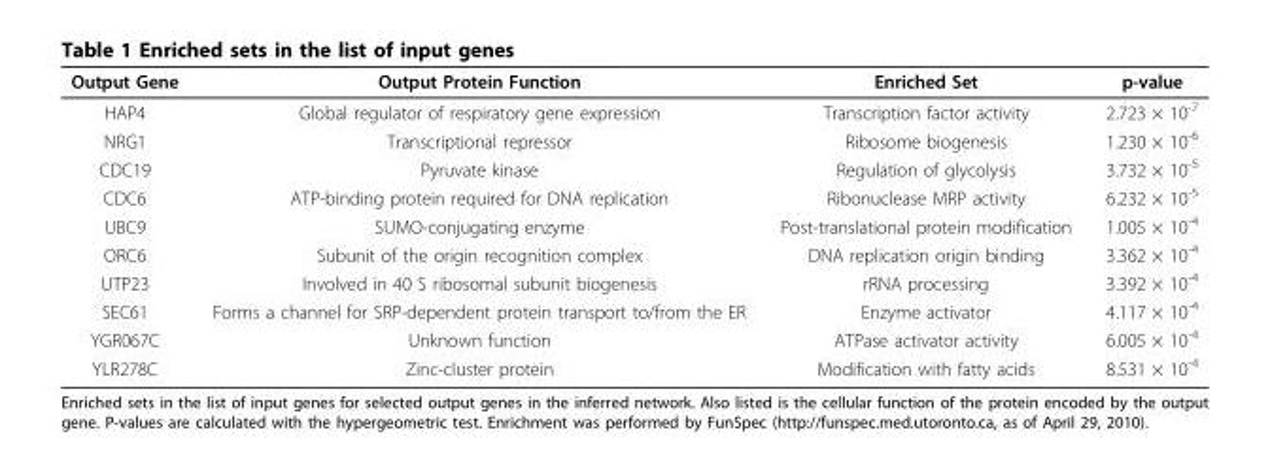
<table><thead><tr><td>Output Gene</td><td>Output Protein Function</td><td>Enriched Set</td><td>p-value</td></tr></thead><tbody><tr><td>HAP4</td><td>Global regulator of respiratory gene expression</td><td>Transcription factor activity</td><td>2.723 × 10<sup>-7</sup></td></tr><tr><td>NRG1</td><td>Transcriptional repressor</td><td>Ribosome biogenesis</td><td>1.230 × 10<sup>-6</sup></td></tr><tr><td>CDC19</td><td>Pyruvate kinase</td><td>Regulation of glycolysis</td><td>3.732 × 10<sup>-5</sup></td></tr><tr><td>CDC6</td><td>ATP-binding protein required for DNA replication</td><td>Ribonuclease MRP activity</td><td>6.232 × 10<sup>-5</sup></td></tr><tr><td>UBC9</td><td>SUMO-conjugating enzyme</td><td>Post-translational protein modification</td><td>1.005 × 10<sup>-4</sup></td></tr><tr><td>ORC6</td><td>Subunit of the origin recognition complex</td><td>DNA replication origin binding</td><td>3.362 × 10<sup>-4</sup></td></tr><tr><td>UTP23</td><td>Involved in 40 S ribosomal subunit biogenesis</td><td>rRNA processing</td><td>3.392 × 10<sup>-4</sup></td></tr><tr><td>SEC61</td><td>Forms a channel for SRP-dependent protein transport to/from the ER</td><td>Enzyme activator</td><td>4.117 × 10<sup>-4</sup></td></tr><tr><td>YGR067C</td><td>Unknown function</td><td>ATPase activator activity</td><td>6.005 × 10<sup>-4</sup></td></tr><tr><td>YLR278C</td><td>Zinc-cluster protein</td><td>Modification with fatty acids</td><td>8.531 × 10<sup>-4</sup></td></tr></tbody></table>